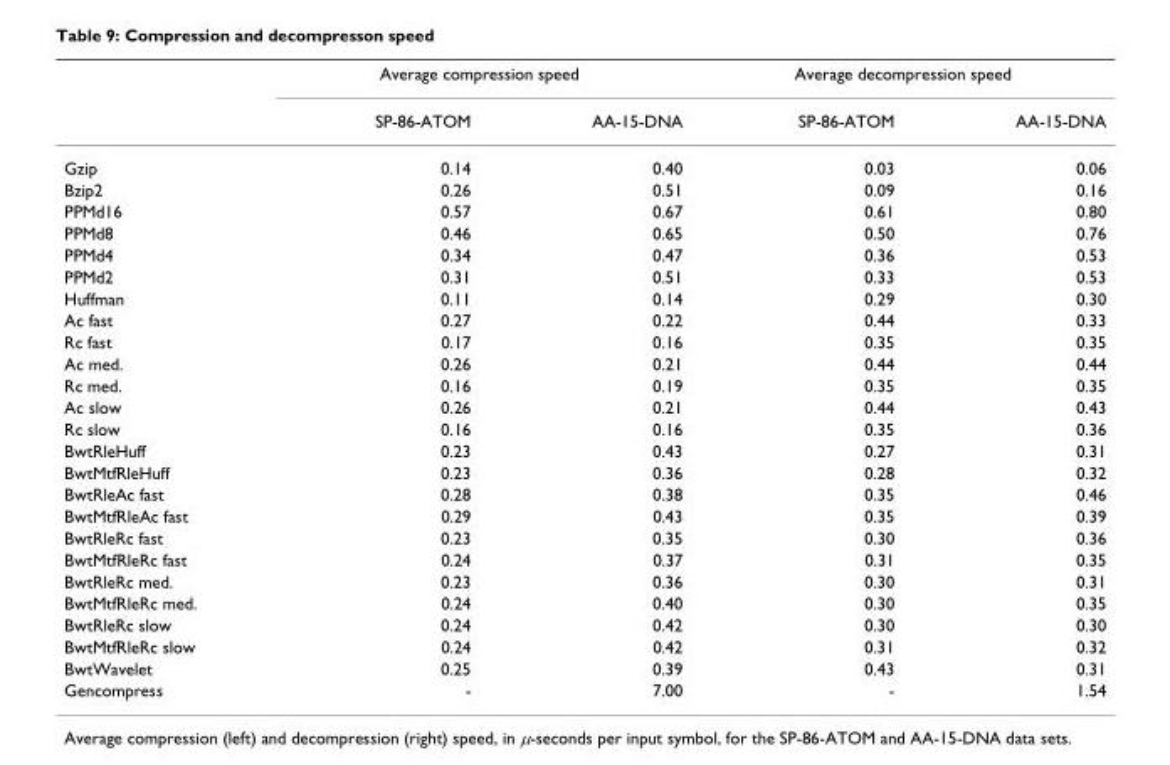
<table><thead><tr><td rowspan="2"></td><td colspan="2">Average compression speed</td><td colspan="2">Average decompression speed</td></tr><tr><td>SP-86-ATOM</td><td>AA-15-DNA</td><td>SP-86-ATOM</td><td>AA-15-DNA</td></tr></thead><tbody><tr><td>Gzip</td><td>0.14</td><td>0.40</td><td>0.03</td><td>0.06</td></tr><tr><td>Bzip2</td><td>0.26</td><td>0.51</td><td>0.09</td><td>0.16</td></tr><tr><td>PPMd16</td><td>0.57</td><td>0.67</td><td>0.61</td><td>0.80</td></tr><tr><td>PPMd8</td><td>0.46</td><td>0.65</td><td>0.50</td><td>0.76</td></tr><tr><td>PPMd4</td><td>0.34</td><td>0.47</td><td>0.36</td><td>0.53</td></tr><tr><td>PPMd2</td><td>0.31</td><td>0.51</td><td>0.33</td><td>0.53</td></tr><tr><td>Huffman</td><td>0.11</td><td>0.14</td><td>0.29</td><td>0.30</td></tr><tr><td>Ac fast</td><td>0.27</td><td>0.22</td><td>0.44</td><td>0.33</td></tr><tr><td>Rc fast</td><td>0.17</td><td>0.16</td><td>0.35</td><td>0.35</td></tr><tr><td>Ac med.</td><td>0.26</td><td>0.21</td><td>0.44</td><td>0.44</td></tr><tr><td>Rc med.</td><td>0.16</td><td>0.19</td><td>0.35</td><td>0.35</td></tr><tr><td>Ac slow</td><td>0.26</td><td>0.21</td><td>0.44</td><td>0.43</td></tr><tr><td>Rc slow</td><td>0.16</td><td>0.16</td><td>0.35</td><td>0.36</td></tr><tr><td>BwtRleHuff</td><td>0.23</td><td>0.43</td><td>0.27</td><td>0.31</td></tr><tr><td>BwtMtfRleHuff</td><td>0.23</td><td>0.36</td><td>0.28</td><td>0.32</td></tr><tr><td>BwtRleAc fast</td><td>0.28</td><td>0.38</td><td>0.35</td><td>0.46</td></tr><tr><td>BwtMtfRleAc fast</td><td>0.29</td><td>0.43</td><td>0.35</td><td>0.39</td></tr><tr><td>BwtRleRc fast</td><td>0.23</td><td>0.35</td><td>0.30</td><td>0.36</td></tr><tr><td>BwtMtfRleRc fast</td><td>0.24</td><td>0.37</td><td>0.31</td><td>0.35</td></tr><tr><td>BwtRleRc med.</td><td>0.23</td><td>0.36</td><td>0.30</td><td>0.31</td></tr><tr><td>BwtMtfRleRc med.</td><td>0.24</td><td>0.40</td><td>0.30</td><td>0.35</td></tr><tr><td>BwtRleRc slow</td><td>0.24</td><td>0.42</td><td>0.30</td><td>0.30</td></tr><tr><td>BwtMtfRleRc slow</td><td>0.24</td><td>0.42</td><td>0.31</td><td>0.32</td></tr><tr><td>BwtWavelet</td><td>0.25</td><td>0.39</td><td>0.43</td><td>0.31</td></tr><tr><td>Gencompress</td><td>-</td><td>7.00</td><td>-</td><td>1.54</td></tr></tbody></table>